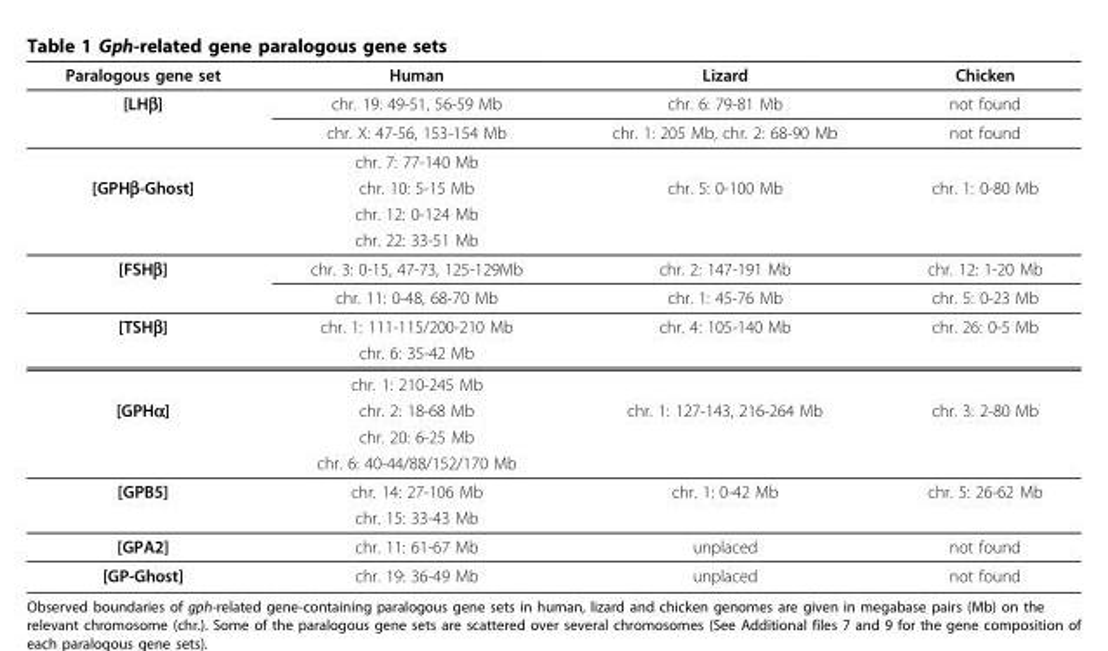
<table><thead><tr><td>Paralogous gene set</td><td>Human</td><td>Lizard</td><td>Chicken</td></tr></thead><tbody><tr><td rowspan="3">[LHβ]</td><td>chr. 19: 49-51, 56-59 Mb</td><td>chr. 6: 79-81 Mb</td><td>not found</td></tr><tr><td>chr. X: 47-56, 153-154 Mb</td><td>chr. 1: 205 Mb, chr. 2: 68-90 Mb</td><td>not found</td></tr><tr><td>chr. 7: 77-140 Mb</td><td></td><td></td></tr><tr><td rowspan="3">[GPHβ-Ghost]</td><td>chr. 10: 5-15 Mb</td><td>chr. 5: 0-100 Mb</td><td>chr. 1: 0-80 Mb</td></tr><tr><td>chr. 12: 0-124 Mb</td><td></td><td></td></tr><tr><td>chr. 22: 33-51 Mb</td><td></td><td></td></tr><tr><td rowspan="2">[FSHβ]</td><td>chr. 3: 0-15, 47-73, 125-129Mb</td><td>chr. 2: 147-191 Mb</td><td>chr. 12: 1-20 Mb</td></tr><tr><td>chr. 11: 0-48, 68-70 Mb</td><td>chr. 1: 45-76 Mb</td><td>chr. 5: 0-23 Mb</td></tr><tr><td rowspan="3">[TSHβ]</td><td>chr. 1: 111-115/200-210 Mb</td><td>chr. 4: 105-140 Mb</td><td>chr. 26: 0-5 Mb</td></tr><tr><td>chr. 6: 35-42 Mb</td><td></td><td></td></tr><tr><td>chr. 1: 210-245 Mb</td><td></td><td></td></tr><tr><td rowspan="3">[GPHα]</td><td>chr. 2: 18-68 Mb</td><td>chr. 1: 127-143, 216-264 Mb</td><td>chr. 3: 2-80 Mb</td></tr><tr><td>chr. 20: 6-25 Mb</td><td></td><td></td></tr><tr><td>chr. 6: 40-44/88/152/170 Mb</td><td></td><td></td></tr><tr><td rowspan="2">[GPB5]</td><td>chr. 14: 27-106 Mb</td><td>chr. 1: 0-42 Mb</td><td>chr. 5: 26-62 Mb</td></tr><tr><td>chr. 15: 33-43 Mb</td><td></td><td></td></tr><tr><td>[GPA2]</td><td>chr. 11: 61-67 Mb</td><td>unplaced</td><td>not found</td></tr><tr><td>[GP-Ghost]</td><td>chr. 19: 36-49 Mb</td><td>unplaced</td><td>not found</td></tr></tbody></table>